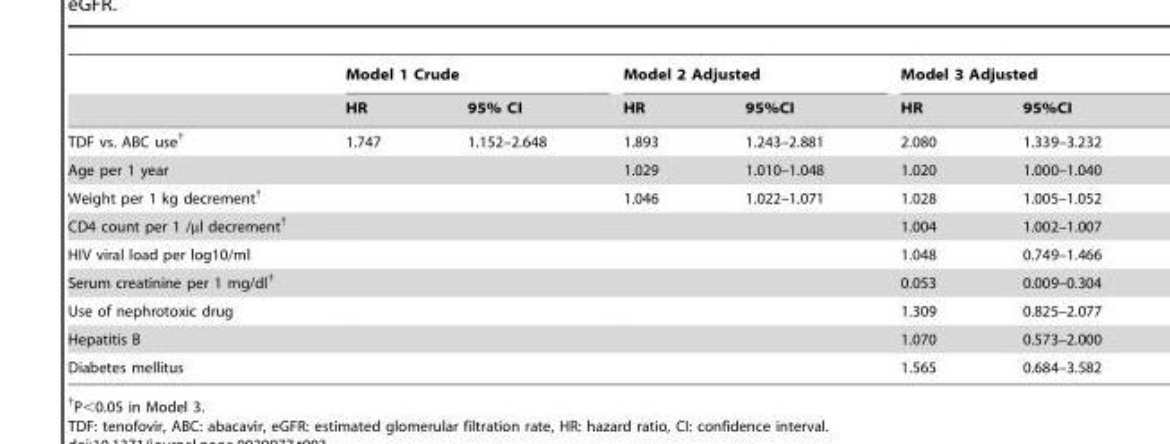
<table><thead><tr><td rowspan="2"></td><td colspan="2">Model 1 Crude</td><td colspan="2">Model 2 Adjusted</td><td colspan="2">Model 3 Adjusted</td></tr><tr><td>HR</td><td>95% CI</td><td>HR</td><td>95%CI</td><td>HR</td><td>95%CI</td></tr></thead><tbody><tr><td>TDF vs. ABC use†</td><td>1.747</td><td>1.152–2.648</td><td>1.893</td><td>1.243–2.881</td><td>2.080</td><td>1.339–3.232</td></tr><tr><td>Age per 1 year</td><td></td><td></td><td>1.029</td><td>1.010–1.048</td><td>1.020</td><td>1.000–1.040</td></tr><tr><td>Weight per 1 kg decrement†</td><td></td><td></td><td>1.046</td><td>1.022–1.071</td><td>1.028</td><td>1.005–1.052</td></tr><tr><td>CD4 count per 1 /µl decrement†</td><td></td><td></td><td></td><td></td><td>1.004</td><td>1.002–1.007</td></tr><tr><td>HIV viral load per log10/ml</td><td></td><td></td><td></td><td></td><td>1.048</td><td>0.749–1.466</td></tr><tr><td>Serum creatinine per 1 mg/dl†</td><td></td><td></td><td></td><td></td><td>0.053</td><td>0.009–0.304</td></tr><tr><td>Use of nephrotoxic drug</td><td></td><td></td><td></td><td></td><td>1.309</td><td>0.825–2.077</td></tr><tr><td>Hepatitis B</td><td></td><td></td><td></td><td></td><td>1.070</td><td>0.573–2.000</td></tr><tr><td>Diabetes mellitus</td><td></td><td></td><td></td><td></td><td>1.565</td><td>0.684–3.582</td></tr></tbody></table>